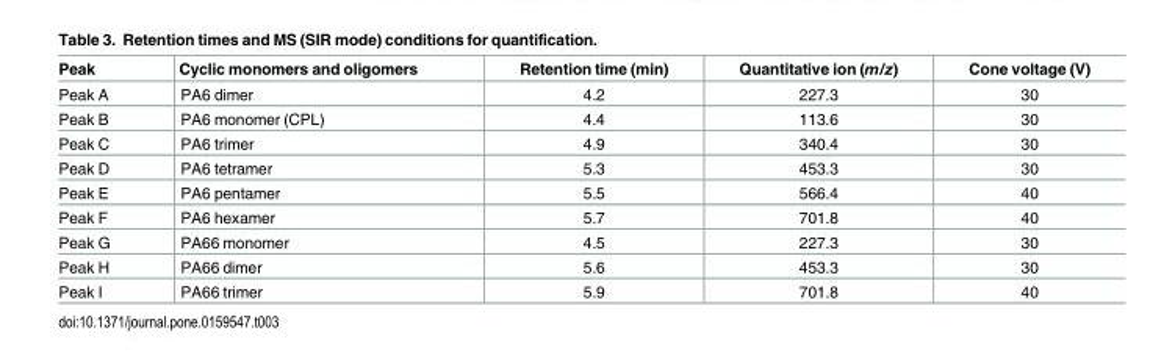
<table><thead><tr><td>Peak</td><td>Cyclic monomers and oligomers</td><td>Retention time (min)</td><td>Quantitative ion (m/z)</td><td>Cone voltage (V)</td></tr></thead><tbody><tr><td>Peak A</td><td>PA6 dimer</td><td>4.2</td><td>227.3</td><td>30</td></tr><tr><td>Peak B</td><td>PA6 monomer (CPL)</td><td>4.4</td><td>113.6</td><td>30</td></tr><tr><td>Peak C</td><td>PA6 trimer</td><td>4.9</td><td>340.4</td><td>30</td></tr><tr><td>Peak D</td><td>PA6 tetramer</td><td>5.3</td><td>453.3</td><td>30</td></tr><tr><td>Peak E</td><td>PA6 pentamer</td><td>5.5</td><td>566.4</td><td>40</td></tr><tr><td>Peak F</td><td>PA6 hexamer</td><td>5.7</td><td>701.8</td><td>40</td></tr><tr><td>Peak G</td><td>PA66 monomer</td><td>4.5</td><td>227.3</td><td>30</td></tr><tr><td>Peak H</td><td>PA66 dimer</td><td>5.6</td><td>453.3</td><td>30</td></tr><tr><td>Peak I</td><td>PA66 trimer</td><td>5.9</td><td>701.8</td><td>40</td></tr></tbody></table>